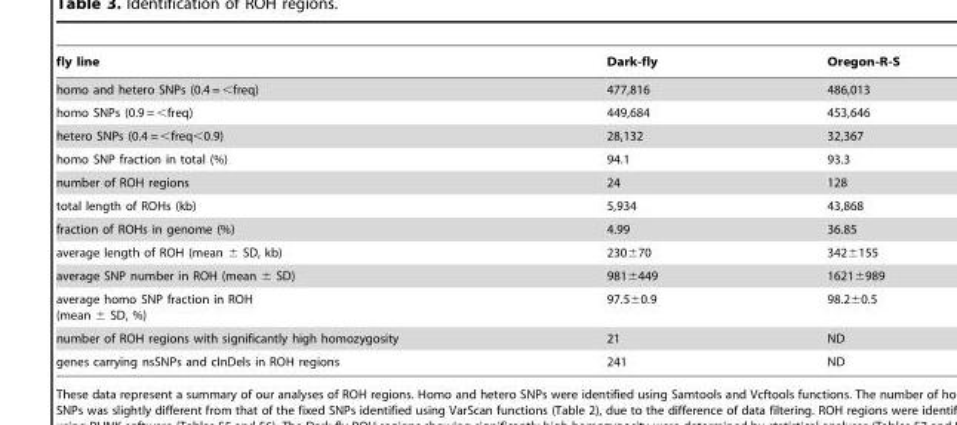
<table><thead><tr><td>fly line</td><td>Dark-fly</td><td>Oregon-R-S</td></tr></thead><tbody><tr><td>homo and hetero SNPs (0.4 = &lt;freq)</td><td>477,816</td><td>486,013</td></tr><tr><td>homo SNPs (0.9 = &lt;freq)</td><td>449,684</td><td>453,646</td></tr><tr><td>hetero SNPs (0.4 = &lt;freq&lt;0.9)</td><td>28,132</td><td>32,367</td></tr><tr><td>homo SNP fraction in total (%)</td><td>94.1</td><td>93.3</td></tr><tr><td>number of ROH regions</td><td>24</td><td>128</td></tr><tr><td>total length of ROHs (kb)</td><td>5,934</td><td>43,868</td></tr><tr><td>fraction of ROHs in genome (%)</td><td>4.99</td><td>36.85</td></tr><tr><td>average length of ROH (mean ± SD, kb)</td><td>230±70</td><td>342±155</td></tr><tr><td>average SNP number in ROH (mean ± SD)</td><td>981±449</td><td>1621±989</td></tr><tr><td>average homo SNP fraction in ROH (mean ± SD, %)</td><td>97.5±0.9</td><td>98.2±0.5</td></tr><tr><td>number of ROH regions with significantly high homozygosity</td><td>21</td><td>ND</td></tr><tr><td>genes carrying nsSNPs and cInDels in ROH regions</td><td>241</td><td>ND</td></tr></tbody></table>